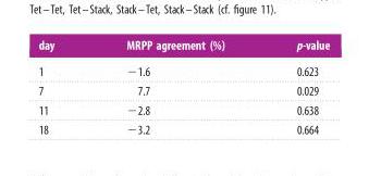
<table><thead><tr><td>day</td><td>MRPP agreement (%)</td><td>p-value</td></tr></thead><tbody><tr><td>1</td><td>−1.6</td><td>0.623</td></tr><tr><td>7</td><td>7.7</td><td>0.029</td></tr><tr><td>11</td><td>−2.8</td><td>0.638</td></tr><tr><td>18</td><td>−3.2</td><td>0.664</td></tr></tbody></table>